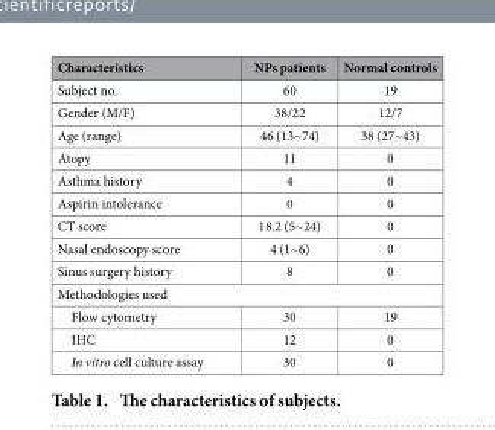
<table><thead><tr><td>Characteristics</td><td>NPs patients</td><td>Normal controls</td></tr></thead><tbody><tr><td>Subject no.</td><td>60</td><td>19</td></tr><tr><td>Gender (M/F)</td><td>38/22</td><td>12/7</td></tr><tr><td>Age (range)</td><td>46 (13~74)</td><td>38 (27~43)</td></tr><tr><td>Atopy</td><td>11</td><td>0</td></tr><tr><td>Asthma history</td><td>4</td><td>0</td></tr><tr><td>Aspirin intolerance</td><td>0</td><td>0</td></tr><tr><td>CT score</td><td>18.2 (5~24)</td><td>0</td></tr><tr><td>Nasal endoscopy score</td><td>4 (1~6)</td><td>0</td></tr><tr><td>Sinus surgery history</td><td>8</td><td>0</td></tr><tr><td colspan="3">Methodologies used</td></tr><tr><td>Flow cytometry</td><td>30</td><td>19</td></tr><tr><td>IHC</td><td>12</td><td>0</td></tr><tr><td>In vitro cell culture assay</td><td>30</td><td>0</td></tr></tbody></table>